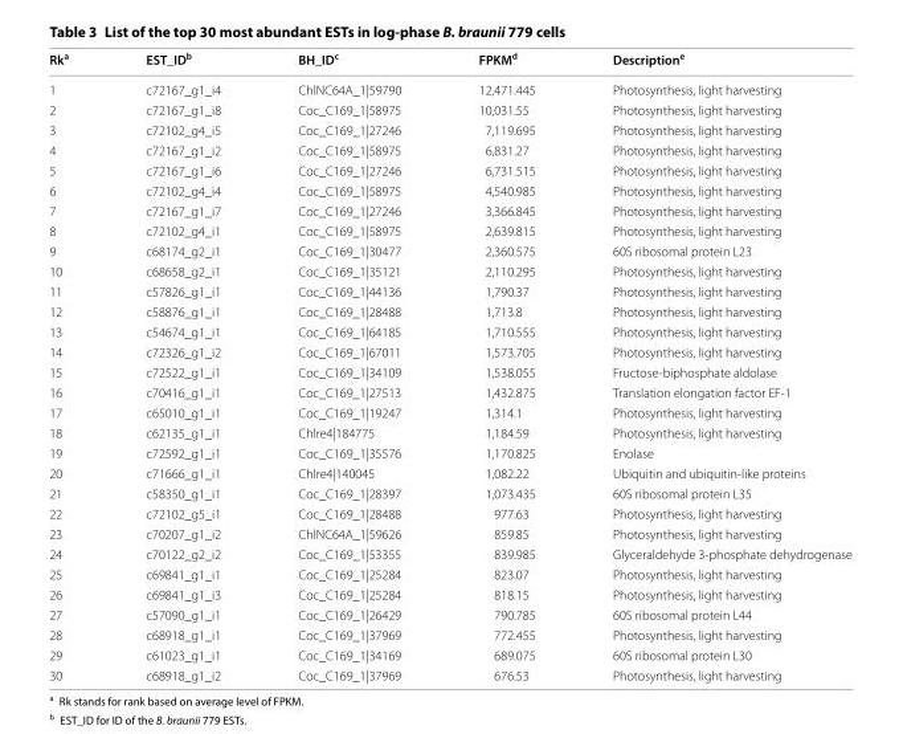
<table><thead><tr><td>Rk<sup>a</sup></td><td>EST_ID<sup>b</sup></td><td>BH_ID<sup>c</sup></td><td>FPKM<sup>d</sup></td><td>Description<sup>e</sup></td></tr></thead><tbody><tr><td>1</td><td>c72167_g1_i4</td><td>ChlNC64A_1|59790</td><td>12,471.445</td><td>Photosynthesis, light harvesting</td></tr><tr><td>2</td><td>c72167_g1_i8</td><td>Coc_C169_1|58975</td><td>10,031.55</td><td>Photosynthesis, light harvesting</td></tr><tr><td>3</td><td>c72102_g4_i5</td><td>Coc_C169_1|27246</td><td>7,119.695</td><td>Photosynthesis, light harvesting</td></tr><tr><td>4</td><td>c72167_g1_i2</td><td>Coc_C169_1|58975</td><td>6,831.27</td><td>Photosynthesis, light harvesting</td></tr><tr><td>5</td><td>c72167_g1_i6</td><td>Coc_C169_1|27246</td><td>6,731.515</td><td>Photosynthesis, light harvesting</td></tr><tr><td>6</td><td>c72102_g4_i4</td><td>Coc_C169_1|58975</td><td>4,540.985</td><td>Photosynthesis, light harvesting</td></tr><tr><td>7</td><td>c72167_g1_i7</td><td>Coc_C169_1|27246</td><td>3,366.845</td><td>Photosynthesis, light harvesting</td></tr><tr><td>8</td><td>c72102_g4_i1</td><td>Coc_C169_1|58975</td><td>2,639.815</td><td>Photosynthesis, light harvesting</td></tr><tr><td>9</td><td>c68174_g2_i1</td><td>Coc_C169_1|30477</td><td>2,360.575</td><td>60S ribosomal protein L23</td></tr><tr><td>10</td><td>c68658_g2_i1</td><td>Coc_C169_1|35121</td><td>2,110.295</td><td>Photosynthesis, light harvesting</td></tr><tr><td>11</td><td>c57826_g1_i1</td><td>Coc_C169_1|44136</td><td>1,790.37</td><td>Photosynthesis, light harvesting</td></tr><tr><td>12</td><td>c58876_g1_i1</td><td>Coc_C169_1|28488</td><td>1,713.8</td><td>Photosynthesis, light harvesting</td></tr><tr><td>13</td><td>c54674_g1_i1</td><td>Coc_C169_1|64185</td><td>1,710.555</td><td>Photosynthesis, light harvesting</td></tr><tr><td>14</td><td>c72326_g1_i2</td><td>Coc_C169_1|67011</td><td>1,573.705</td><td>Photosynthesis, light harvesting</td></tr><tr><td>15</td><td>c72522_g1_i1</td><td>Coc_C169_1|34109</td><td>1,538.055</td><td>Fructose-biphosphate aldolase</td></tr><tr><td>16</td><td>c70416_g1_i1</td><td>Coc_C169_1|27513</td><td>1,432.875</td><td>Translation elongation factor EF-1</td></tr><tr><td>17</td><td>c65010_g1_i1</td><td>Coc_C169_1|19247</td><td>1,314.1</td><td>Photosynthesis, light harvesting</td></tr><tr><td>18</td><td>c62135_g1_i1</td><td>Chlre4|184775</td><td>1,184.59</td><td>Photosynthesis, light harvesting</td></tr><tr><td>19</td><td>c72592_g1_i1</td><td>Coc_C169_1|35576</td><td>1,170.825</td><td>Enolase</td></tr><tr><td>20</td><td>c71666_g1_i1</td><td>Chlre4|140045</td><td>1,082.22</td><td>Ubiquitin and ubiquitin-like proteins</td></tr><tr><td>21</td><td>c58350_g1_i1</td><td>Coc_C169_1|28397</td><td>1,073.435</td><td>60S ribosomal protein L35</td></tr><tr><td>22</td><td>c72102_g5_i1</td><td>Coc_C169_1|28488</td><td>977.63</td><td>Photosynthesis, light harvesting</td></tr><tr><td>23</td><td>c70207_g1_i2</td><td>ChlNC64A_1|59626</td><td>859.85</td><td>Photosynthesis, light harvesting</td></tr><tr><td>24</td><td>c70122_g2_i2</td><td>Coc_C169_1|53355</td><td>839.985</td><td>Glyceraldehyde 3-phosphate dehydrogenase</td></tr><tr><td>25</td><td>c69841_g1_i1</td><td>Coc_C169_1|25284</td><td>823.07</td><td>Photosynthesis, light harvesting</td></tr><tr><td>26</td><td>c69841_g1_i3</td><td>Coc_C169_1|25284</td><td>818.15</td><td>Photosynthesis, light harvesting</td></tr><tr><td>27</td><td>c57090_g1_i1</td><td>Coc_C169_1|26429</td><td>790.785</td><td>60S ribosomal protein L44</td></tr><tr><td>28</td><td>c68918_g1_i1</td><td>Coc_C169_1|37969</td><td>772.455</td><td>Photosynthesis, light harvesting</td></tr><tr><td>29</td><td>c61023_g1_i1</td><td>Coc_C169_1|34169</td><td>689.075</td><td>60S ribosomal protein L30</td></tr><tr><td>30</td><td>c68918_g1_i2</td><td>Coc_C169_1|37969</td><td>676.53</td><td>Photosynthesis, light harvesting</td></tr></tbody></table>